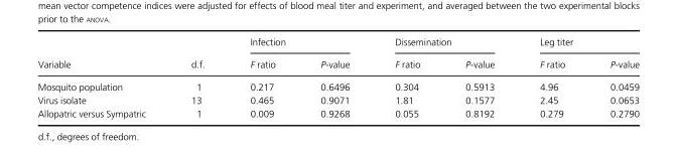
<table><thead><tr><td rowspan="2">Variable</td><td rowspan="2">d.f.</td><td colspan="2">Infection</td><td colspan="2">Dissemination</td><td colspan="2">Leg titer</td></tr><tr><td>F ratio</td><td>P-value</td><td>F ratio</td><td>P-value</td><td>F ratio</td><td>P-value</td></tr></thead><tbody><tr><td>Mosquito population</td><td>1</td><td>0.217</td><td>0.6496</td><td>0.304</td><td>0.5913</td><td>4.96</td><td>0.0459</td></tr><tr><td>Virus isolate</td><td>13</td><td>0.465</td><td>0.9071</td><td>1.81</td><td>0.1577</td><td>2.45</td><td>0.0653</td></tr><tr><td>Allopatric versus Sympatric</td><td>1</td><td>0.009</td><td>0.9268</td><td>0.055</td><td>0.8192</td><td>0.279</td><td>0.2790</td></tr></tbody></table>